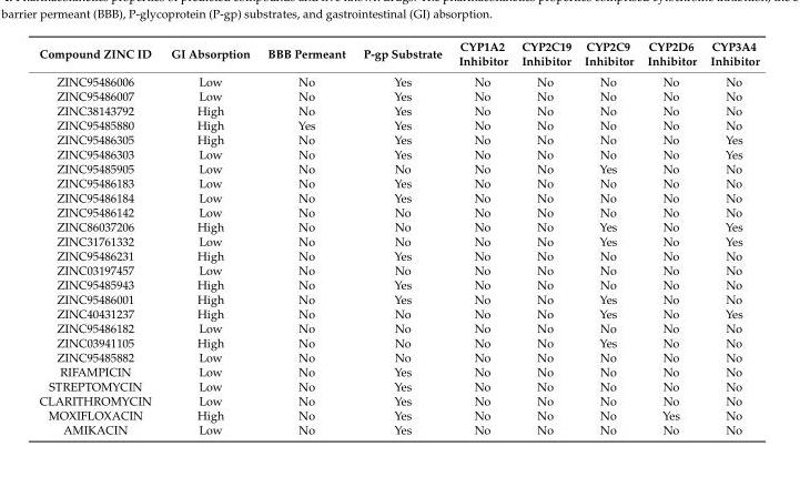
<table><thead><tr><td>Compound ZINC ID</td><td>GI Absorption</td><td>BBB Permeant</td><td>P-gp Substrate</td><td>CYP1A2 Inhibitor</td><td>CYP2C19 Inhibitor</td><td>CYP2C9 Inhibitor</td><td>CYP2D6 Inhibitor</td><td>CYP3A4 Inhibitor</td></tr></thead><tbody><tr><td>ZINC95486006</td><td>Low</td><td>No</td><td>Yes</td><td>No</td><td>No</td><td>No</td><td>No</td><td>No</td></tr><tr><td>ZINC95486007</td><td>Low</td><td>No</td><td>Yes</td><td>No</td><td>No</td><td>No</td><td>No</td><td>No</td></tr><tr><td>ZINC38143792</td><td>High</td><td>No</td><td>Yes</td><td>No</td><td>No</td><td>No</td><td>No</td><td>No</td></tr><tr><td>ZINC95485880</td><td>High</td><td>Yes</td><td>Yes</td><td>No</td><td>No</td><td>No</td><td>No</td><td>No</td></tr><tr><td>ZINC95486305</td><td>High</td><td>No</td><td>Yes</td><td>No</td><td>No</td><td>No</td><td>No</td><td>Yes</td></tr><tr><td>ZINC95486303</td><td>Low</td><td>No</td><td>Yes</td><td>No</td><td>No</td><td>No</td><td>No</td><td>Yes</td></tr><tr><td>ZINC95485905</td><td>Low</td><td>No</td><td>No</td><td>No</td><td>No</td><td>Yes</td><td>No</td><td>No</td></tr><tr><td>ZINC95486183</td><td>Low</td><td>No</td><td>Yes</td><td>No</td><td>No</td><td>No</td><td>No</td><td>No</td></tr><tr><td>ZINC95486184</td><td>Low</td><td>No</td><td>Yes</td><td>No</td><td>No</td><td>No</td><td>No</td><td>No</td></tr><tr><td>ZINC95486142</td><td>Low</td><td>No</td><td>No</td><td>No</td><td>No</td><td>No</td><td>No</td><td>No</td></tr><tr><td>ZINC86037206</td><td>High</td><td>No</td><td>No</td><td>No</td><td>No</td><td>Yes</td><td>No</td><td>Yes</td></tr><tr><td>ZINC31761332</td><td>Low</td><td>No</td><td>No</td><td>No</td><td>No</td><td>Yes</td><td>No</td><td>Yes</td></tr><tr><td>ZINC95486231</td><td>High</td><td>No</td><td>Yes</td><td>No</td><td>No</td><td>No</td><td>No</td><td>No</td></tr><tr><td>ZINC03197457</td><td>Low</td><td>No</td><td>No</td><td>No</td><td>No</td><td>No</td><td>No</td><td>No</td></tr><tr><td>ZINC95485943</td><td>High</td><td>No</td><td>Yes</td><td>No</td><td>No</td><td>No</td><td>No</td><td>No</td></tr><tr><td>ZINC95486001</td><td>High</td><td>No</td><td>Yes</td><td>No</td><td>No</td><td>Yes</td><td>No</td><td>No</td></tr><tr><td>ZINC40431237</td><td>High</td><td>No</td><td>No</td><td>No</td><td>No</td><td>Yes</td><td>No</td><td>Yes</td></tr><tr><td>ZINC95486182</td><td>Low</td><td>No</td><td>No</td><td>No</td><td>No</td><td>No</td><td>No</td><td>No</td></tr><tr><td>ZINC03941105</td><td>High</td><td>No</td><td>No</td><td>No</td><td>No</td><td>Yes</td><td>No</td><td>No</td></tr><tr><td>ZINC95485882</td><td>Low</td><td>No</td><td>No</td><td>No</td><td>No</td><td>No</td><td>No</td><td>No</td></tr><tr><td>RIFAMPICIN</td><td>Low</td><td>No</td><td>Yes</td><td>No</td><td>No</td><td>No</td><td>No</td><td>No</td></tr><tr><td>STREPTOMYCIN</td><td>Low</td><td>No</td><td>Yes</td><td>No</td><td>No</td><td>No</td><td>No</td><td>No</td></tr><tr><td>CLARITHROMYCIN</td><td>Low</td><td>No</td><td>Yes</td><td>No</td><td>No</td><td>No</td><td>No</td><td>No</td></tr><tr><td>MOXIFLOXACIN</td><td>High</td><td>No</td><td>Yes</td><td>No</td><td>No</td><td>No</td><td>Yes</td><td>No</td></tr><tr><td>AMIKACIN</td><td>Low</td><td>No</td><td>Yes</td><td>No</td><td>No</td><td>No</td><td>No</td><td>No</td></tr></tbody></table>